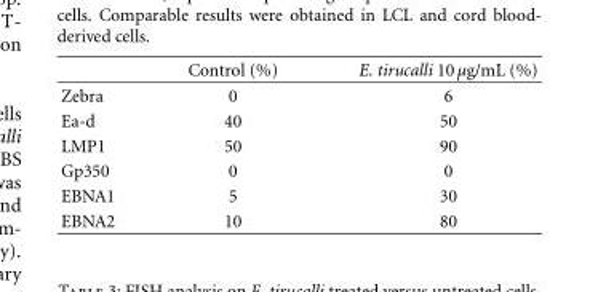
<table><thead><tr><td></td><td>Control (%)</td><td>E. tirucalli 10 μg/mL (%)</td></tr></thead><tbody><tr><td>Zebra</td><td>0</td><td>6</td></tr><tr><td>Ea-d</td><td>40</td><td>50</td></tr><tr><td>LMP1</td><td>50</td><td>90</td></tr><tr><td>Gp350</td><td>0</td><td>0</td></tr><tr><td>EBNA1</td><td>5</td><td>30</td></tr><tr><td>EBNA2</td><td>10</td><td>80</td></tr></tbody></table>